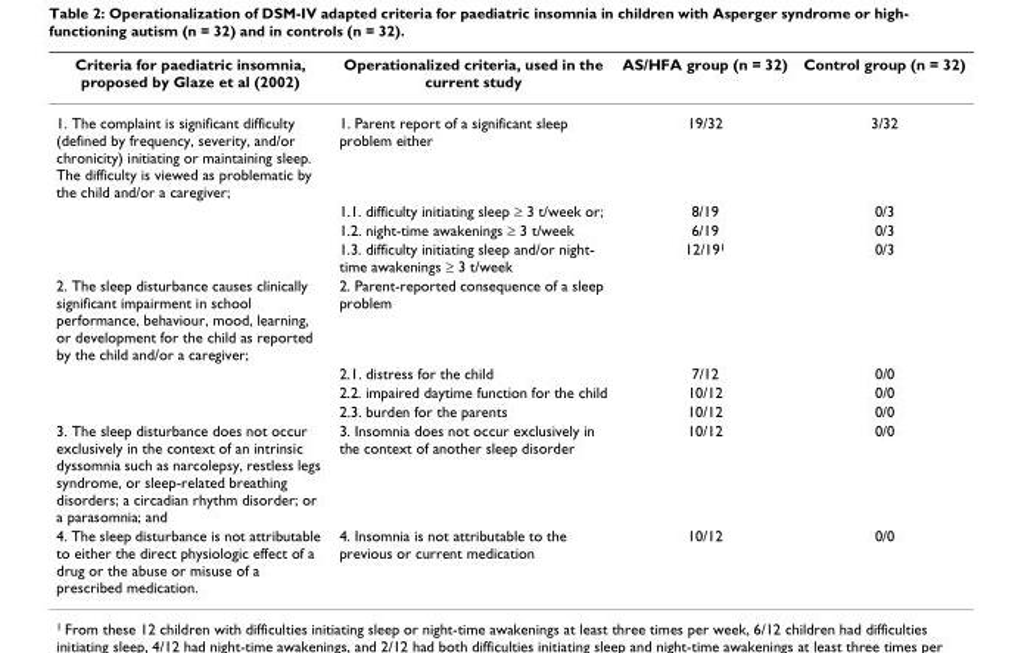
<table><thead><tr><td>Criteria for paediatric insomnia, proposed by Glaze et al (2002)</td><td>Operationalized criteria, used in the current study</td><td>AS/HFA group (n = 32)</td><td>Control group (n = 32)</td></tr></thead><tbody><tr><td rowspan="4">1. The complaint is significant difficulty (defined by frequency, severity, and/or chronicity) initiating or maintaining sleep. The difficulty is viewed as problematic by the child and/or a caregiver;</td><td>1. Parent report of a significant sleep problem either</td><td>19/32</td><td>3/32</td></tr><tr><td>1.1. difficulty initiating sleep ≥ 3 t/week or;</td><td>8/19</td><td>0/3</td></tr><tr><td>1.2. night-time awakenings ≥ 3 t/week</td><td>6/19</td><td>0/3</td></tr><tr><td>1.3. difficulty initiating sleep and/or night- time awakenings ≥ 3 t/week</td><td>12/19<sup>1</sup></td><td>0/3</td></tr><tr><td rowspan="4">2. The sleep disturbance causes clinically significant impairment in school performance, behaviour, mood, learning, or development for the child as reported by the child and/or a caregiver;</td><td>2. Parent-reported consequence of a sleep problem</td><td></td><td></td></tr><tr><td>2.1. distress for the child</td><td>7/12</td><td>0/0</td></tr><tr><td>2.2. impaired daytime function for the child</td><td>10/12</td><td>0/0</td></tr><tr><td>2.3. burden for the parents</td><td>10/12</td><td>0/0</td></tr><tr><td>3. The sleep disturbance does not occur exclusively in the context of an intrinsic dyssomnia such as narcolepsy, restless legs syndrome, or sleep-related breathing disorders; a circadian rhythm disorder; or a parasomnia; and</td><td>3. Insomnia does not occur exclusively in the context of another sleep disorder</td><td>10/12</td><td>0/0</td></tr><tr><td>4. The sleep disturbance is not attributable to either the direct physiologic effect of a drug or the abuse or misuse of a prescribed medication.</td><td>4. Insomnia is not attributable to the previous or current medication</td><td>10/12</td><td>0/0</td></tr></tbody></table>